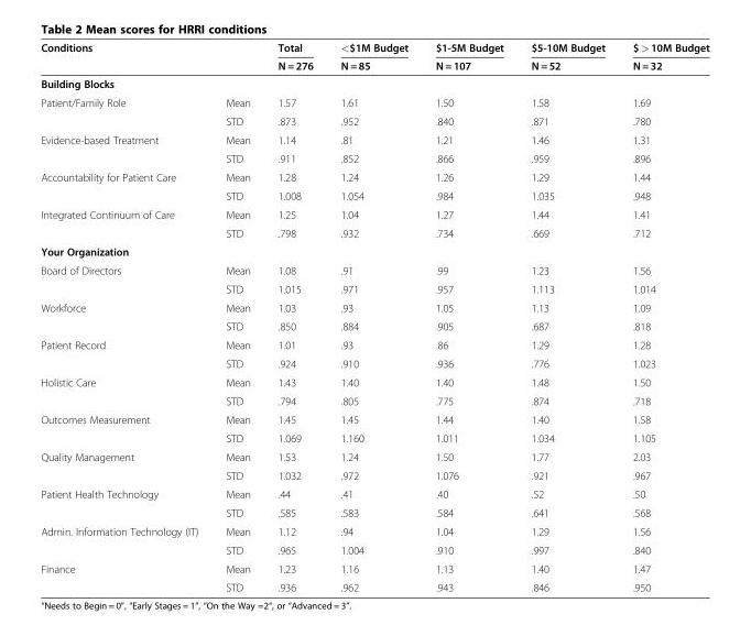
<table><thead><tr><td rowspan="2">Conditions</td><td rowspan="2"></td><td rowspan="2">Total N = 276</td><td rowspan="2">&lt;$1M Budget N = 85</td><td rowspan="2">$1-5M Budget N = 107</td><td rowspan="2">$5-10M Budget N = 52</td><td rowspan="2">$ &gt; 10M Budget N = 32</td></tr><tr></tr></thead><tbody><tr><td colspan="7">Building Blocks</td></tr><tr><td rowspan="2">Patient/Family Role</td><td>Mean</td><td>1.57</td><td>1.61</td><td>1.50</td><td>1.58</td><td>1.69</td></tr><tr><td>STD</td><td>.873</td><td>.952</td><td>.840</td><td>.871</td><td>.780</td></tr><tr><td rowspan="2">Evidence-based Treatment</td><td>Mean</td><td>1.14</td><td>.81</td><td>1.21</td><td>1.46</td><td>1.31</td></tr><tr><td>STD</td><td>.911</td><td>.852</td><td>.866</td><td>.959</td><td>.896</td></tr><tr><td rowspan="2">Accountability for Patient Care</td><td>Mean</td><td>1.28</td><td>1.24</td><td>1.26</td><td>1.29</td><td>1.44</td></tr><tr><td>STD</td><td>1.008</td><td>1.054</td><td>.984</td><td>1.035</td><td>.948</td></tr><tr><td rowspan="2">Integrated Continuum of Care</td><td>Mean</td><td>1.25</td><td>1.04</td><td>1.27</td><td>1.44</td><td>1.41</td></tr><tr><td>STD</td><td>.798</td><td>.932</td><td>.734</td><td>.669</td><td>.712</td></tr><tr><td colspan="7">Your Organization</td></tr><tr><td rowspan="2">Board of Directors</td><td>Mean</td><td>1.08</td><td>.91</td><td>.99</td><td>1.23</td><td>1.56</td></tr><tr><td>STD</td><td>1.015</td><td>.971</td><td>.957</td><td>1.113</td><td>1.014</td></tr><tr><td rowspan="2">Workforce</td><td>Mean</td><td>1.03</td><td>.93</td><td>1.05</td><td>1.13</td><td>1.09</td></tr><tr><td>STD</td><td>.850</td><td>.884</td><td>.905</td><td>.687</td><td>.818</td></tr><tr><td rowspan="2">Patient Record</td><td>Mean</td><td>1.01</td><td>.93</td><td>.86</td><td>1.29</td><td>1.28</td></tr><tr><td>STD</td><td>.924</td><td>.910</td><td>.936</td><td>.776</td><td>1.023</td></tr><tr><td rowspan="2">Holistic Care</td><td>Mean</td><td>1.43</td><td>1.40</td><td>1.40</td><td>1.48</td><td>1.50</td></tr><tr><td>STD</td><td>.794</td><td>.805</td><td>.775</td><td>.874</td><td>.718</td></tr><tr><td rowspan="2">Outcomes Measurement</td><td>Mean</td><td>1.45</td><td>1.45</td><td>1.44</td><td>1.40</td><td>1.58</td></tr><tr><td>STD</td><td>1.069</td><td>1.160</td><td>1.011</td><td>1.034</td><td>1.105</td></tr><tr><td rowspan="2">Quality Management</td><td>Mean</td><td>1.53</td><td>1.24</td><td>1.50</td><td>1.77</td><td>2.03</td></tr><tr><td>STD</td><td>1.032</td><td>.972</td><td>1.076</td><td>.921</td><td>.967</td></tr><tr><td rowspan="2">Patient Health Technology</td><td>Mean</td><td>.44</td><td>.41</td><td>.40</td><td>.52</td><td>.50</td></tr><tr><td>STD</td><td>.585</td><td>.583</td><td>.584</td><td>.641</td><td>.568</td></tr><tr><td rowspan="2">Admin. Information Technology (IT)</td><td>Mean</td><td>1.12</td><td>.94</td><td>1.04</td><td>1.29</td><td>1.56</td></tr><tr><td>STD</td><td>.965</td><td>1.004</td><td>.910</td><td>.997</td><td>.840</td></tr><tr><td rowspan="2">Finance</td><td>Mean</td><td>1.23</td><td>1.16</td><td>1.13</td><td>1.40</td><td>1.47</td></tr><tr><td>STD</td><td>.936</td><td>.962</td><td>.943</td><td>.846</td><td>.950</td></tr></tbody></table>